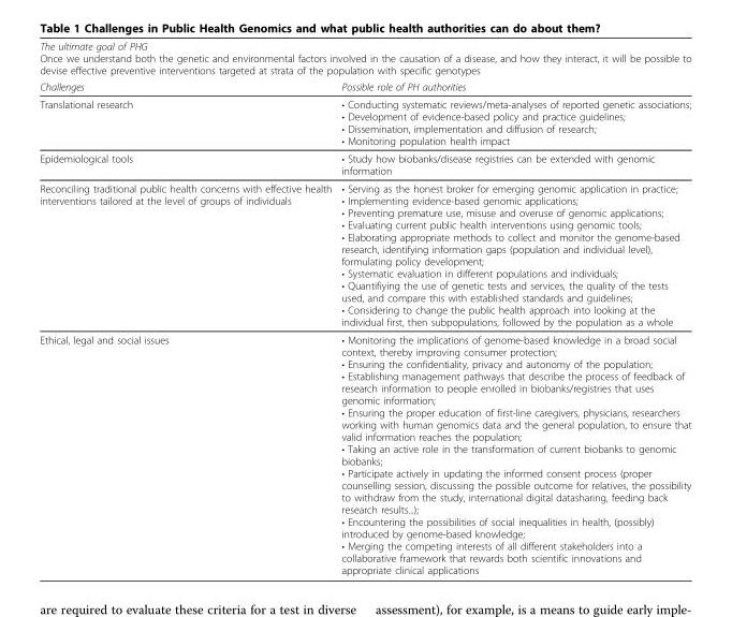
<table><thead><tr><td colspan="2">The ultimate goal of PHG Once we understand both the genetic and environmental factors involved in the causation of a disease, and how they interact, it will be possible to devise effective preventive interventions targeted at strata of the population with specific genotypes</td></tr><tr><td>Challenges</td><td>Possible role of PH authorities</td></tr></thead><tbody><tr><td>Translational research</td><td>• Conducting systematic reviews/meta-analyses of reported genetic associations; • Development of evidence-based policy and practice guidelines; • Dissemination, implementation and diffusion of research; • Monitoring population health impact</td></tr><tr><td>Epidemiological tools</td><td>• Study how biobanks/disease registries can be extended with genomic information</td></tr><tr><td>Reconciling traditional public health concerns with effective health interventions tailored at the level of groups of individuals</td><td>• Serving as the honest broker for emerging genomic application in practice; • Implementing evidence-based genomic applications; • Preventing premature use, misuse and overuse of genomic applications; • Evaluating current public health interventions using genomic tools; • Elaborating appropriate methods to collect and monitor the genome-based research, identifying information gaps (population and individual level), formulating policy development; • Systematic evaluation in different populations and individuals; • Quantifiying the use of genetic tests and services, the quality of the tests used, and compare this with established standards and guidelines; • Considering to change the public health approach into looking at the individual first, then subpopulations, followed by the population as a whole</td></tr><tr><td>Ethical, legal and social issues</td><td>• Monitoring the implications of genome-based knowledge in a broad social context, thereby improving consumer protection; • Ensuring the confidentiality, privacy and autonomy of the population; • Establishing management pathways that describe the process of feedback of research information to people enrolled in biobanks/registries that uses genomic information; • Ensuring the proper education of first-line caregivers, physicians, researchers working with human genomics data and the general population, to ensure that valid information reaches the population; • Taking an active role in the transformation of current biobanks to genomic biobanks; • Participate actively in updating the informed consent process (proper counselling session, discussing the possible outcome for relatives, the possibility to withdraw from the study, international digital datasharing, feeding back research results...); • Encountering the possibilities of social inequalities in health, (possibly) introduced by genome-based knowledge; • Merging the competing interests of all different stakeholders into a collaborative framework that rewards both scientific innovations and appropriate clinical applications</td></tr></tbody></table>